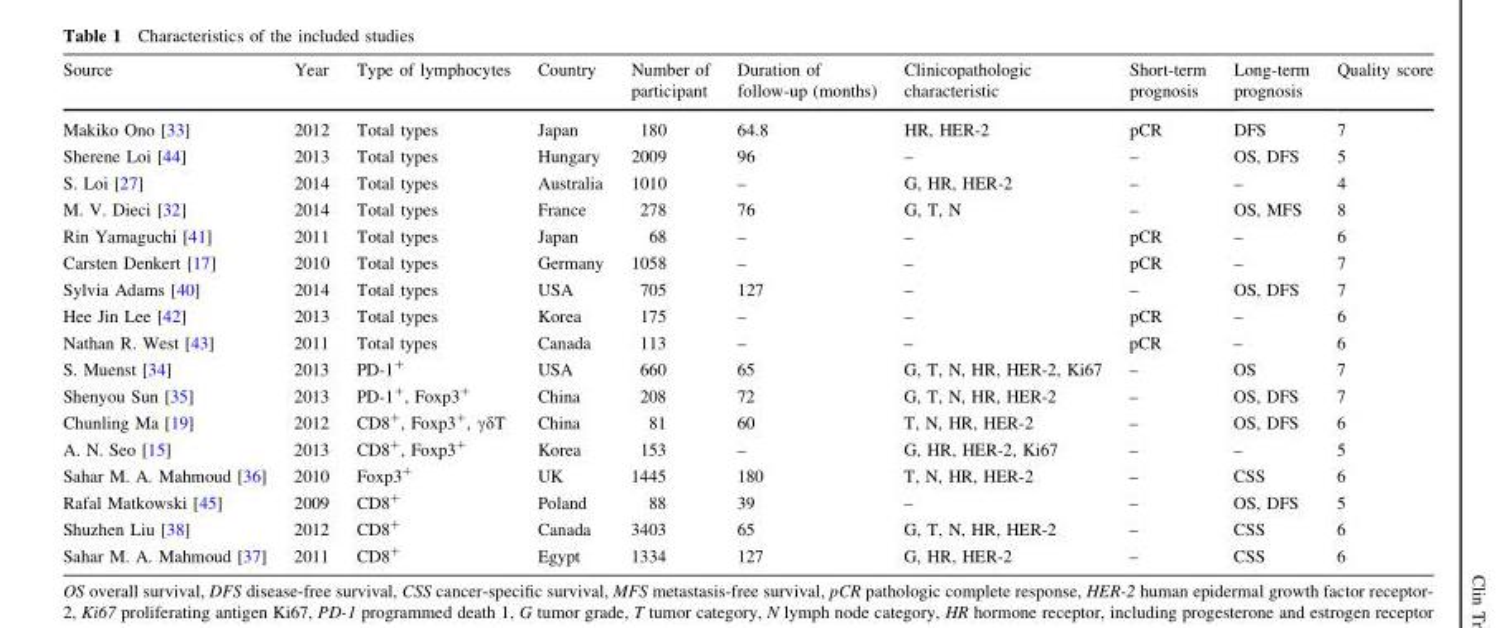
<table><thead><tr><td>Source</td><td>Year</td><td>Type of lymphocytes</td><td>Country</td><td>Number of participant</td><td>Duration of follow-up (months)</td><td>Clinicopathologic characteristic</td><td>Short-term prognosis</td><td>Long-term prognosis</td><td>Quality score</td></tr></thead><tbody><tr><td>Makiko Ono [33]</td><td>2012</td><td>Total types</td><td>Japan</td><td>180</td><td>64.8</td><td>HR, HER-2</td><td>pCR</td><td>DFS</td><td>7</td></tr><tr><td>Sherene Loi [44]</td><td>2013</td><td>Total types</td><td>Hungary</td><td>2009</td><td>96</td><td>–</td><td>–</td><td>OS, DFS</td><td>5</td></tr><tr><td>S. Loi [27]</td><td>2014</td><td>Total types</td><td>Australia</td><td>1010</td><td>–</td><td>G, HR, HER-2</td><td>–</td><td>–</td><td>4</td></tr><tr><td>M. V. Dieci [32]</td><td>2014</td><td>Total types</td><td>France</td><td>278</td><td>76</td><td>G, T, N</td><td>–</td><td>OS, MFS</td><td>8</td></tr><tr><td>Rin Yamaguchi [41]</td><td>2011</td><td>Total types</td><td>Japan</td><td>68</td><td>–</td><td>–</td><td>pCR</td><td>–</td><td>6</td></tr><tr><td>Carsten Denkert [17]</td><td>2010</td><td>Total types</td><td>Germany</td><td>1058</td><td>–</td><td>–</td><td>pCR</td><td>–</td><td>7</td></tr><tr><td>Sylvia Adams [40]</td><td>2014</td><td>Total types</td><td>USA</td><td>705</td><td>127</td><td>–</td><td>–</td><td>OS, DFS</td><td>7</td></tr><tr><td>Hee Jin Lee [42]</td><td>2013</td><td>Total types</td><td>Korea</td><td>175</td><td>–</td><td>–</td><td>pCR</td><td>–</td><td>6</td></tr><tr><td>Nathan R. West [43]</td><td>2011</td><td>Total types</td><td>Canada</td><td>113</td><td>–</td><td>–</td><td>pCR</td><td>–</td><td>6</td></tr><tr><td>S. Muenst [34]</td><td>2013</td><td>PD-1<sup>+</sup></td><td>USA</td><td>660</td><td>65</td><td>G, T, N, HR, HER-2, Ki67</td><td>–</td><td>OS</td><td>7</td></tr><tr><td>Shenyou Sun [35]</td><td>2013</td><td>PD-1<sup>+</sup>, Foxp3<sup>+</sup></td><td>China</td><td>208</td><td>72</td><td>G, T, N, HR, HER-2</td><td>–</td><td>OS, DFS</td><td>7</td></tr><tr><td>Chunling Ma [19]</td><td>2012</td><td>CD8<sup>+</sup>, Foxp3<sup>+</sup>, γδT</td><td>China</td><td>81</td><td>60</td><td>T, N, HR, HER-2</td><td>–</td><td>OS, DFS</td><td>6</td></tr><tr><td>A. N. Seo [15]</td><td>2013</td><td>CD8<sup>+</sup>, Foxp3<sup>+</sup></td><td>Korea</td><td>153</td><td>–</td><td>G, HR, HER-2, Ki67</td><td>–</td><td>–</td><td>5</td></tr><tr><td>Sahar M. A. Mahmoud [36]</td><td>2010</td><td>Foxp3<sup>+</sup></td><td>UK</td><td>1445</td><td>180</td><td>T, N, HR, HER-2</td><td>–</td><td>CSS</td><td>6</td></tr><tr><td>Rafal Matkowski [45]</td><td>2009</td><td>CD8<sup>+</sup></td><td>Poland</td><td>88</td><td>39</td><td>–</td><td>–</td><td>OS, DFS</td><td>5</td></tr><tr><td>Shuzhen Liu [38]</td><td>2012</td><td>CD8<sup>+</sup></td><td>Canada</td><td>3403</td><td>65</td><td>G, T, N, HR, HER-2</td><td>–</td><td>CSS</td><td>6</td></tr><tr><td>Sahar M. A. Mahmoud [37]</td><td>2011</td><td>CD8<sup>+</sup></td><td>Egypt</td><td>1334</td><td>127</td><td>G, HR, HER-2</td><td>–</td><td>CSS</td><td>6</td></tr></tbody></table>